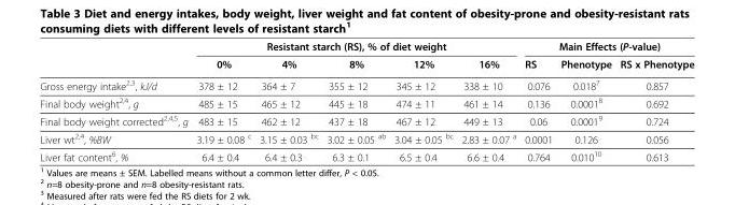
<table><thead><tr><td rowspan="2"></td><td colspan="5">Resistant starch (RS), % of diet weight</td><td colspan="3">Main Effects (P-value)</td></tr><tr><td>0%</td><td>4%</td><td>8%</td><td>12%</td><td>16%</td><td>RS</td><td>Phenotype</td><td>RS x Phenotype</td></tr></thead><tbody><tr><td>Gross energy intake<sup>2,3</sup>, kJ/d</td><td>378 ± 12</td><td>364 ± 7</td><td>355 ± 12</td><td>345 ± 12</td><td>338 ± 10</td><td>0.076</td><td>0.018<sup>7</sup></td><td>0.857</td></tr><tr><td>Final body weight<sup>2,4</sup>, g</td><td>485 ± 15</td><td>465 ± 12</td><td>445 ± 18</td><td>474 ± 11</td><td>461 ± 14</td><td>0.136</td><td>0.0001<sup>8</sup></td><td>0.692</td></tr><tr><td>Final body weight corrected<sup>2,4,5</sup>, g</td><td>483 ± 15</td><td>462 ± 12</td><td>437 ± 18</td><td>467 ± 12</td><td>449 ± 13</td><td>0.06</td><td>0.0001<sup>9</sup></td><td>0.724</td></tr><tr><td>Liver wt<sup>2,4</sup>, %BW</td><td>3.19 ± 0.08 <sup>c</sup></td><td>3.15 ± 0.03 <sup>bc</sup></td><td>3.02 ± 0.05 <sup>ab</sup></td><td>3.04 ± 0.05 <sup>bc</sup></td><td>2.83 ± 0.07 <sup>a</sup></td><td>0.0001</td><td>0.126</td><td>0.056</td></tr><tr><td>Liver fat content<sup>6</sup>, %</td><td>6.4 ± 0.4</td><td>6.4 ± 0.3</td><td>6.3 ± 0.1</td><td>6.5 ± 0.4</td><td>6.6 ± 0.4</td><td>0.764</td><td>0.010<sup>10</sup></td><td>0.613</td></tr></tbody></table>